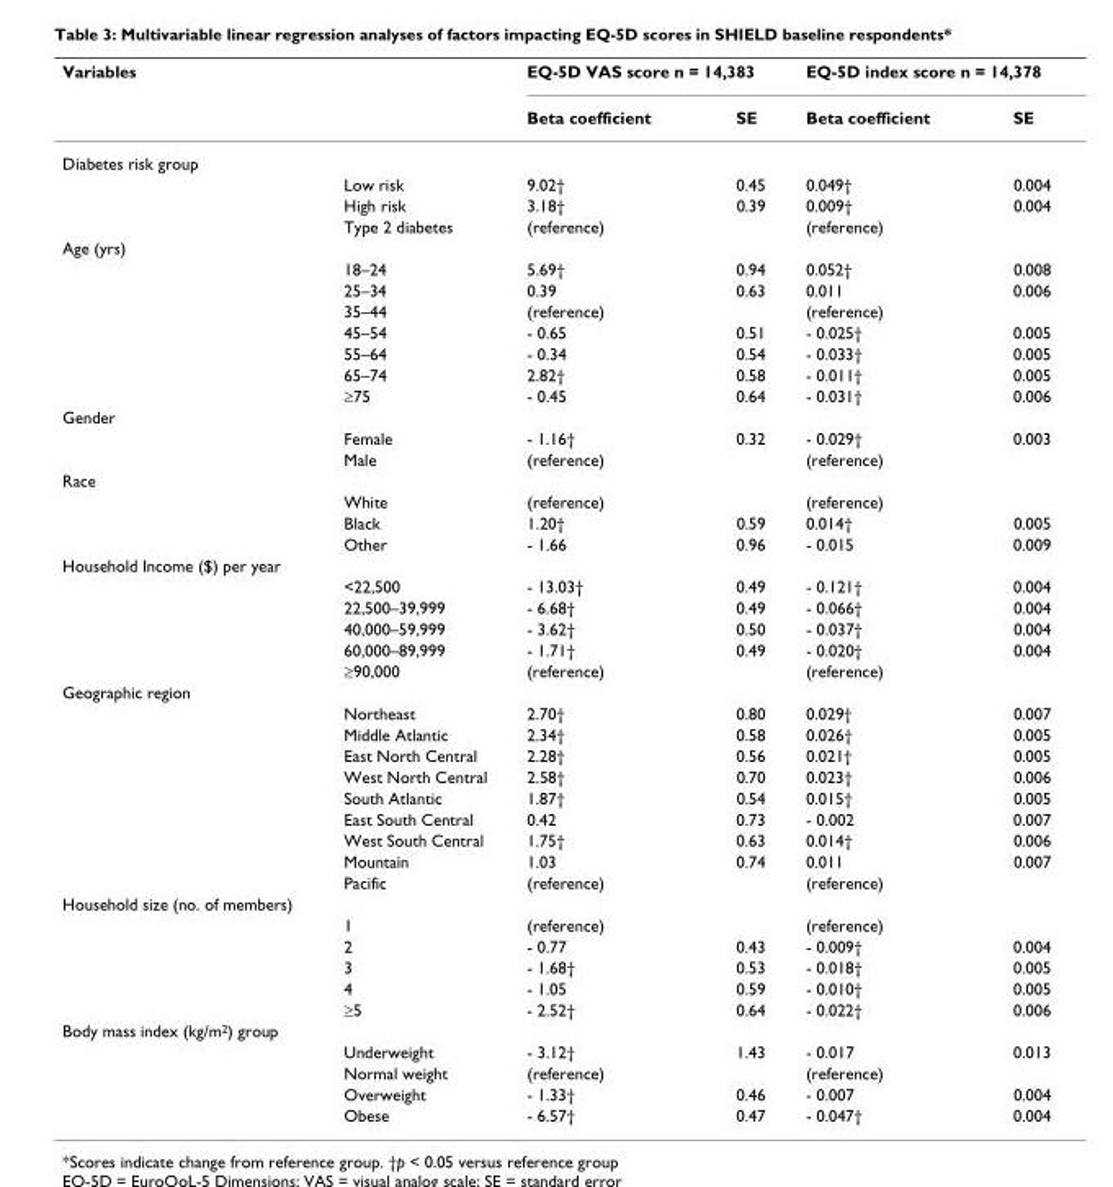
<table><thead><tr><td colspan="2">Variables</td><td colspan="2">EQ-5D VAS score n = 14,383</td><td colspan="2">EQ-5D index score n = 14,378</td></tr><tr><td></td><td></td><td>Beta coefficient</td><td>SE</td><td>Beta coefficient</td><td>SE</td></tr></thead><tbody><tr><td colspan="6">Diabetes risk group</td></tr><tr><td></td><td>Low risk</td><td>9.02†</td><td>0.45</td><td>0.049†</td><td>0.004</td></tr><tr><td></td><td>High risk</td><td>3.18†</td><td>0.39</td><td>0.009†</td><td>0.004</td></tr><tr><td></td><td>Type 2 diabetes</td><td>(reference)</td><td></td><td>(reference)</td><td></td></tr><tr><td colspan="6">Age (yrs)</td></tr><tr><td></td><td>18–24</td><td>5.69†</td><td>0.94</td><td>0.052†</td><td>0.008</td></tr><tr><td></td><td>25–34</td><td>0.39</td><td>0.63</td><td>0.011</td><td>0.006</td></tr><tr><td></td><td>35–44</td><td>(reference)</td><td></td><td>(reference)</td><td></td></tr><tr><td></td><td>45–54</td><td>- 0.65</td><td>0.51</td><td>- 0.025†</td><td>0.005</td></tr><tr><td></td><td>55–64</td><td>- 0.34</td><td>0.54</td><td>- 0.033†</td><td>0.005</td></tr><tr><td></td><td>65–74</td><td>2.82†</td><td>0.58</td><td>- 0.011†</td><td>0.005</td></tr><tr><td></td><td>≥75</td><td>- 0.45</td><td>0.64</td><td>- 0.031†</td><td>0.006</td></tr><tr><td colspan="6">Gender</td></tr><tr><td></td><td>Female</td><td>- 1.16†</td><td>0.32</td><td>- 0.029†</td><td>0.003</td></tr><tr><td></td><td>Male</td><td>(reference)</td><td></td><td>(reference)</td><td></td></tr><tr><td colspan="6">Race</td></tr><tr><td></td><td>White</td><td>(reference)</td><td></td><td>(reference)</td><td></td></tr><tr><td></td><td>Black</td><td>1.20†</td><td>0.59</td><td>0.014†</td><td>0.005</td></tr><tr><td></td><td>Other</td><td>- 1.66</td><td>0.96</td><td>- 0.015</td><td>0.009</td></tr><tr><td colspan="6">Household Income ($) per year</td></tr><tr><td></td><td>&lt;22,500</td><td>- 13.03†</td><td>0.49</td><td>- 0.121†</td><td>0.004</td></tr><tr><td></td><td>22,500–39,999</td><td>- 6.68†</td><td>0.49</td><td>- 0.066†</td><td>0.004</td></tr><tr><td></td><td>40,000–59,999</td><td>- 3.62†</td><td>0.50</td><td>- 0.037†</td><td>0.004</td></tr><tr><td></td><td>60,000–89,999</td><td>- 1.71†</td><td>0.49</td><td>- 0.020†</td><td>0.004</td></tr><tr><td></td><td>≥90,000</td><td>(reference)</td><td></td><td>(reference)</td><td></td></tr><tr><td colspan="6">Geographic region</td></tr><tr><td></td><td>Northeast</td><td>2.70†</td><td>0.80</td><td>0.029†</td><td>0.007</td></tr><tr><td></td><td>Middle Atlantic</td><td>2.34†</td><td>0.58</td><td>0.026†</td><td>0.005</td></tr><tr><td></td><td>East North Central</td><td>2.28†</td><td>0.56</td><td>0.021†</td><td>0.005</td></tr><tr><td></td><td>West North Central</td><td>2.58†</td><td>0.70</td><td>0.023†</td><td>0.006</td></tr><tr><td></td><td>South Atlantic</td><td>1.87†</td><td>0.54</td><td>0.015†</td><td>0.005</td></tr><tr><td></td><td>East South Central</td><td>0.42</td><td>0.73</td><td>- 0.002</td><td>0.007</td></tr><tr><td></td><td>West South Central</td><td>1.75†</td><td>0.63</td><td>0.014†</td><td>0.006</td></tr><tr><td></td><td>Mountain</td><td>1.03</td><td>0.74</td><td>0.011</td><td>0.007</td></tr><tr><td></td><td>Pacific</td><td>(reference)</td><td></td><td>(reference)</td><td></td></tr><tr><td colspan="6">Household size (no. of members)</td></tr><tr><td></td><td>1</td><td>(reference)</td><td></td><td>(reference)</td><td></td></tr><tr><td></td><td>2</td><td>- 0.77</td><td>0.43</td><td>- 0.009†</td><td>0.004</td></tr><tr><td></td><td>3</td><td>- 1.68†</td><td>0.53</td><td>- 0.018†</td><td>0.005</td></tr><tr><td></td><td>4</td><td>- 1.05</td><td>0.59</td><td>- 0.010†</td><td>0.005</td></tr><tr><td></td><td>≥5</td><td>- 2.52†</td><td>0.64</td><td>- 0.022†</td><td>0.006</td></tr><tr><td colspan="6">Body mass index (kg/m<sup>2</sup>) group</td></tr><tr><td></td><td>Underweight</td><td>- 3.12†</td><td>1.43</td><td>- 0.017</td><td>0.013</td></tr><tr><td></td><td>Normal weight</td><td>(reference)</td><td></td><td>(reference)</td><td></td></tr><tr><td></td><td>Overweight</td><td>- 1.33†</td><td>0.46</td><td>- 0.007</td><td>0.004</td></tr><tr><td></td><td>Obese</td><td>- 6.57†</td><td>0.47</td><td>- 0.047†</td><td>0.004</td></tr></tbody></table>